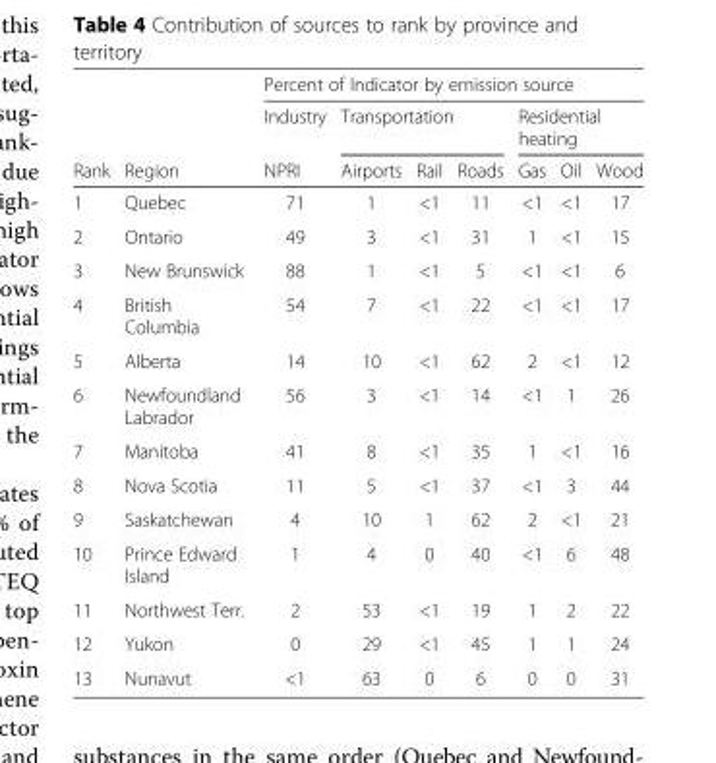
<table><thead><tr><td rowspan="3">Rank</td><td rowspan="3">Region</td><td colspan="7">Percent of Indicator by emission source</td></tr><tr><td rowspan="2">Industry NPRI</td><td colspan="3">Transportation</td><td colspan="3">Residential heating</td></tr><tr><td>Airports</td><td>Rail</td><td>Roads</td><td>Gas</td><td>Oil</td><td>Wood</td></tr></thead><tbody><tr><td>1</td><td>Quebec</td><td>71</td><td>1</td><td>&lt;1</td><td>11</td><td>&lt;1</td><td>&lt;1</td><td>17</td></tr><tr><td>2</td><td>Ontario</td><td>49</td><td>3</td><td>&lt;1</td><td>31</td><td>1</td><td>&lt;1</td><td>15</td></tr><tr><td>3</td><td>New Brunswick</td><td>88</td><td>1</td><td>&lt;1</td><td>5</td><td>&lt;1</td><td>&lt;1</td><td>6</td></tr><tr><td>4</td><td>British Columbia</td><td>54</td><td>7</td><td>&lt;1</td><td>22</td><td>&lt;1</td><td>&lt;1</td><td>17</td></tr><tr><td>5</td><td>Alberta</td><td>14</td><td>10</td><td>&lt;1</td><td>62</td><td>2</td><td>&lt;1</td><td>12</td></tr><tr><td>6</td><td>Newfoundland Labrador</td><td>56</td><td>3</td><td>&lt;1</td><td>14</td><td>&lt;1</td><td>1</td><td>26</td></tr><tr><td>7</td><td>Manitoba</td><td>41</td><td>8</td><td>&lt;1</td><td>35</td><td>1</td><td>&lt;1</td><td>16</td></tr><tr><td>8</td><td>Nova Scotia</td><td>11</td><td>5</td><td>&lt;1</td><td>37</td><td>&lt;1</td><td>3</td><td>44</td></tr><tr><td>9</td><td>Saskatchewan</td><td>4</td><td>10</td><td>1</td><td>62</td><td>2</td><td>&lt;1</td><td>21</td></tr><tr><td>10</td><td>Prince Edward Island</td><td>1</td><td>4</td><td>0</td><td>40</td><td>&lt;1</td><td>6</td><td>48</td></tr><tr><td>11</td><td>Northwest Terr.</td><td>2</td><td>53</td><td>&lt;1</td><td>19</td><td>1</td><td>2</td><td>22</td></tr><tr><td>12</td><td>Yukon</td><td>0</td><td>29</td><td>&lt;1</td><td>45</td><td>1</td><td>1</td><td>24</td></tr><tr><td>13</td><td>Nunavut</td><td>&lt;1</td><td>63</td><td>0</td><td>6</td><td>0</td><td>0</td><td>31</td></tr></tbody></table>